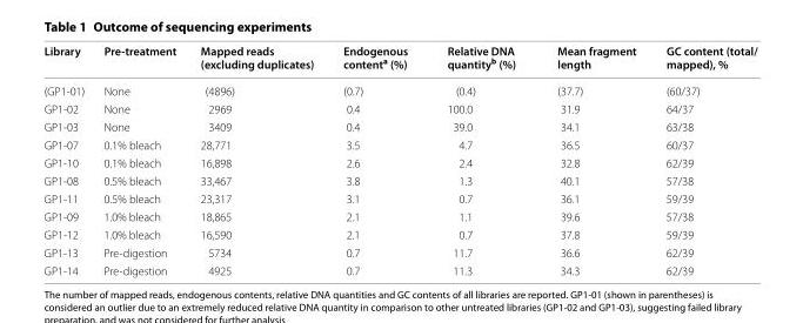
<table><thead><tr><td>Library</td><td>Pre-treatment</td><td>Mapped reads (excluding duplicates)</td><td>Endogenous content<sup>a</sup> (%)</td><td>Relative DNA quantity<sup>b</sup> (%)</td><td>Mean fragment length</td><td>GC content (total/ mapped), %</td></tr></thead><tbody><tr><td>(GP1-01)</td><td>None</td><td>(4896)</td><td>(0.7)</td><td>(0.4)</td><td>(37.7)</td><td>(60/37)</td></tr><tr><td>GP1-02</td><td>None</td><td>2969</td><td>0.4</td><td>100.0</td><td>31.9</td><td>64/37</td></tr><tr><td>GP1-03</td><td>None</td><td>3409</td><td>0.4</td><td>39.0</td><td>34.1</td><td>63/38</td></tr><tr><td>GP1-07</td><td>0.1% bleach</td><td>28,771</td><td>3.5</td><td>4.7</td><td>36.5</td><td>60/37</td></tr><tr><td>GP1-10</td><td>0.1% bleach</td><td>16,898</td><td>2.6</td><td>2.4</td><td>32.8</td><td>62/39</td></tr><tr><td>GP1-08</td><td>0.5% bleach</td><td>33,467</td><td>3.8</td><td>1.3</td><td>40.1</td><td>57/38</td></tr><tr><td>GP1-11</td><td>0.5% bleach</td><td>23,317</td><td>3.1</td><td>0.7</td><td>36.1</td><td>59/39</td></tr><tr><td>GP1-09</td><td>1.0% bleach</td><td>18,865</td><td>2.1</td><td>1.1</td><td>39.6</td><td>57/38</td></tr><tr><td>GP1-12</td><td>1.0% bleach</td><td>16,590</td><td>2.1</td><td>0.7</td><td>37.8</td><td>59/39</td></tr><tr><td>GP1-13</td><td>Pre-digestion</td><td>5734</td><td>0.7</td><td>11.7</td><td>36.6</td><td>62/39</td></tr><tr><td>GP1-14</td><td>Pre-digestion</td><td>4925</td><td>0.7</td><td>11.3</td><td>34.3</td><td>62/39</td></tr></tbody></table>